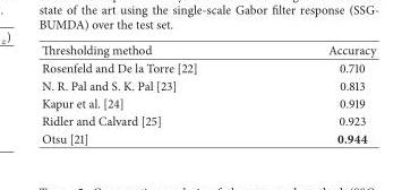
<table><thead><tr><td>Thresholding method</td><td>Accuracy</td></tr></thead><tbody><tr><td>Rosenfeld and De la Torre [22]</td><td>0.710</td></tr><tr><td>N. R. Pal and S. K. Pal [23]</td><td>0.813</td></tr><tr><td>Kapur et al. [24]</td><td>0.919</td></tr><tr><td>Ridler and Calvard [25]</td><td>0.923</td></tr><tr><td>Otsu [21]</td><td>0.944</td></tr></tbody></table>